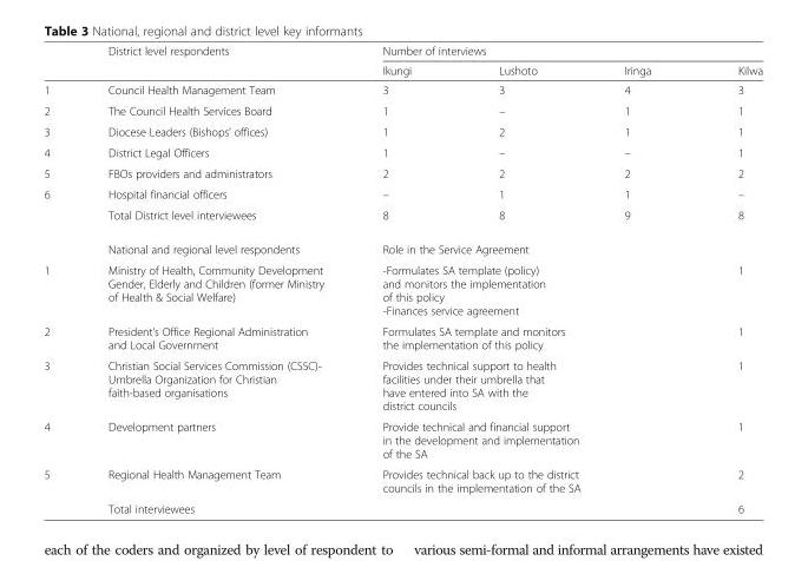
<table><thead><tr><td rowspan="2"></td><td rowspan="2">District level respondents</td><td colspan="4">Number of interviews</td></tr><tr><td>Ikungi</td><td>Lushoto</td><td>Iringa</td><td>Kilwa</td></tr></thead><tbody><tr><td>1</td><td>Council Health Management Team</td><td>3</td><td>3</td><td>4</td><td>3</td></tr><tr><td>2</td><td>The Council Health Services Board</td><td>1</td><td>–</td><td>1</td><td>1</td></tr><tr><td>3</td><td>Diocese Leaders (Bishops’ offices)</td><td>1</td><td>2</td><td>1</td><td>1</td></tr><tr><td>4</td><td>District Legal Officers</td><td>1</td><td>–</td><td>–</td><td>1</td></tr><tr><td>5</td><td>FBOs providers and administrators</td><td>2</td><td>2</td><td>2</td><td>2</td></tr><tr><td rowspan="3">6</td><td>Hospital financial officers</td><td>–</td><td>1</td><td>1</td><td>–</td></tr><tr><td>Total District level interviewees</td><td>8</td><td>8</td><td>9</td><td>8</td></tr><tr><td>National and regional level respondents</td><td colspan="4">Role in the Service Agreement</td></tr><tr><td>1</td><td>Ministry of Health, Community Development Gender, Elderly and Children (former Ministry of Health &amp; Social Welfare)</td><td colspan="3">-Formulates SA template (policy) and monitors the implementation of this policy -Finances service agreement</td><td>1</td></tr><tr><td>2</td><td>President’s Office Regional Administration and Local Government</td><td colspan="3">Formulates SA template and monitors the implementation of this policy</td><td>1</td></tr><tr><td>3</td><td>Christian Social Services Commission (CSSC)- Umbrella Organization for Christian faith-based organisations</td><td colspan="3">Provides technical support to health facilities under their umbrella that have entered into SA with the district councils</td><td>1</td></tr><tr><td>4</td><td>Development partners</td><td colspan="3">Provide technical and financial support in the development and implementation of the SA</td><td>1</td></tr><tr><td rowspan="2">5</td><td>Regional Health Management Team</td><td colspan="3">Provides technical back up to the district councils in the implementation of the SA</td><td>2</td></tr><tr><td colspan="4">Total interviewees</td><td>6</td></tr></tbody></table>